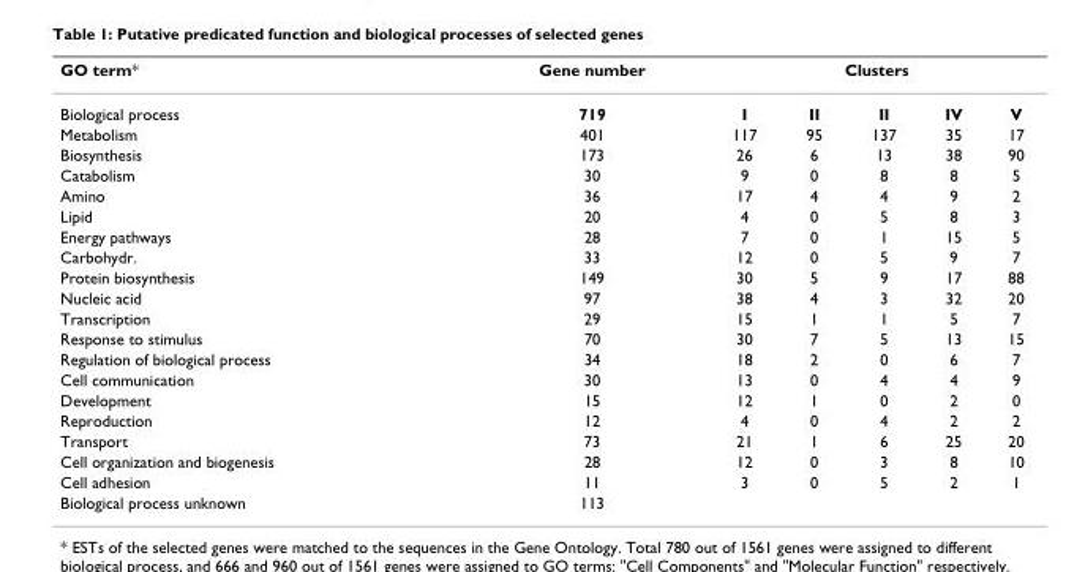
<table><thead><tr><td rowspan="2">GO term* Biological process</td><td rowspan="2">Gene number 719</td><td colspan="5">Clusters</td></tr><tr><td>I</td><td>II</td><td>II</td><td>IV</td><td>V</td></tr></thead><tbody><tr><td>Metabolism</td><td>401</td><td>117</td><td>95</td><td>137</td><td>35</td><td>17</td></tr><tr><td>Biosynthesis</td><td>173</td><td>26</td><td>6</td><td>13</td><td>38</td><td>90</td></tr><tr><td>Catabolism</td><td>30</td><td>9</td><td>0</td><td>8</td><td>8</td><td>5</td></tr><tr><td>Amino</td><td>36</td><td>17</td><td>4</td><td>4</td><td>9</td><td>2</td></tr><tr><td>Lipid</td><td>20</td><td>4</td><td>0</td><td>5</td><td>8</td><td>3</td></tr><tr><td>Energy pathways</td><td>28</td><td>7</td><td>0</td><td>1</td><td>15</td><td>5</td></tr><tr><td>Carbohydr.</td><td>33</td><td>12</td><td>0</td><td>5</td><td>9</td><td>7</td></tr><tr><td>Protein biosynthesis</td><td>149</td><td>30</td><td>5</td><td>9</td><td>17</td><td>88</td></tr><tr><td>Nucleic acid</td><td>97</td><td>38</td><td>4</td><td>3</td><td>32</td><td>20</td></tr><tr><td>Transcription</td><td>29</td><td>15</td><td>1</td><td>1</td><td>5</td><td>7</td></tr><tr><td>Response to stimulus</td><td>70</td><td>30</td><td>7</td><td>5</td><td>13</td><td>15</td></tr><tr><td>Regulation of biological process</td><td>34</td><td>18</td><td>2</td><td>0</td><td>6</td><td>7</td></tr><tr><td>Cell communication</td><td>30</td><td>13</td><td>0</td><td>4</td><td>4</td><td>9</td></tr><tr><td>Development</td><td>15</td><td>12</td><td>1</td><td>0</td><td>2</td><td>0</td></tr><tr><td>Reproduction</td><td>12</td><td>4</td><td>0</td><td>4</td><td>2</td><td>2</td></tr><tr><td>Transport</td><td>73</td><td>21</td><td>1</td><td>6</td><td>25</td><td>20</td></tr><tr><td>Cell organization and biogenesis</td><td>28</td><td>12</td><td>0</td><td>3</td><td>8</td><td>10</td></tr><tr><td>Cell adhesion</td><td>11</td><td>3</td><td>0</td><td>5</td><td>2</td><td>1</td></tr><tr><td>Biological process unknown</td><td>113</td><td></td><td></td><td></td><td></td><td></td></tr></tbody></table>